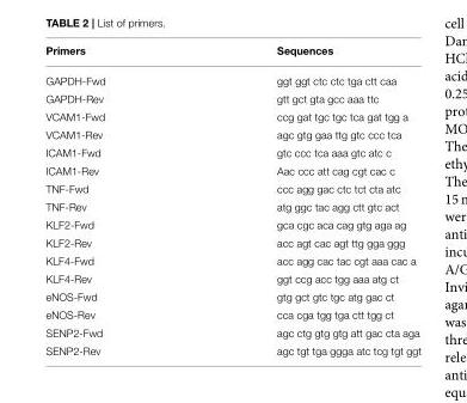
<table><thead><tr><td>Primers</td><td>Sequences</td></tr></thead><tbody><tr><td>GAPDH-Fwd</td><td>ggt ggt ctc ctc tga ctt caa</td></tr><tr><td>GAPDH-Rev</td><td>gtt gct gta gcc aaa ttc</td></tr><tr><td>VCAM1-Fwd</td><td>ccg gat tgc tgc tca gat tgg a</td></tr><tr><td>VCAM1-Rev</td><td>agc gtg gaa ttg gtc ccc tca</td></tr><tr><td>ICAM1-Fwd</td><td>gtc ccc tca aaa gtc atc c</td></tr><tr><td>ICAM1-Rev</td><td>Aac ccc att cag cgt cac c</td></tr><tr><td>TNF-Fwd</td><td>ccc agg gac ctc tct cta atc</td></tr><tr><td>TNF-Rev</td><td>atg ggc tac agg ctt gtc act</td></tr><tr><td>KLF2-Fwd</td><td>gca cgc aca cag gtg aga ag</td></tr><tr><td>KLF2-Rev</td><td>acc agt cac agt ttg gga ggg</td></tr><tr><td>KLF4-Fwd</td><td>acc agg cac tac cgt aaa cac a</td></tr><tr><td>KLF4-Rev</td><td>ggt ccg acc tgg aaa atg ct</td></tr><tr><td>eNOS-Fwd</td><td>gtg gct gtc tgc atg gac ct</td></tr><tr><td>eNOS-Rev</td><td>cca cga tgg tga ctt tgg ct</td></tr><tr><td>SENP2-Fwd</td><td>agc ctg gtg gtg att gac cta aga</td></tr><tr><td>SENP2-Rev</td><td>agc tgt tga ggga atc tcg tgt ggt</td></tr></tbody></table>